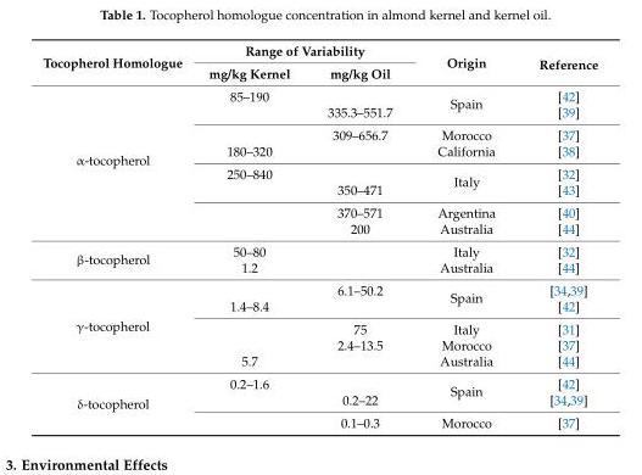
<table><thead><tr><td rowspan="2">Tocopherol Homologue</td><td colspan="2">Range of Variability</td><td rowspan="2">Origin</td><td rowspan="2">Reference</td></tr><tr><td>mg/kg Kernel</td><td>mg/kg Oil</td></tr></thead><tbody><tr><td rowspan="8">α-tocopherol</td><td>85–190</td><td></td><td rowspan="2">Spain</td><td>[42]</td></tr><tr><td></td><td>335.3–551.7</td><td>[39]</td></tr><tr><td></td><td>309–656.7</td><td>Morocco</td><td>[37]</td></tr><tr><td>180–320</td><td></td><td>California</td><td>[38]</td></tr><tr><td>250–840</td><td></td><td rowspan="2">Italy</td><td>[32]</td></tr><tr><td></td><td>350–471</td><td>[43]</td></tr><tr><td></td><td>370–571</td><td>Argentina</td><td>[40]</td></tr><tr><td></td><td>200</td><td>Australia</td><td>[44]</td></tr><tr><td rowspan="2">β-tocopherol</td><td>50–80</td><td></td><td>Italy</td><td>[32]</td></tr><tr><td>1.2</td><td></td><td>Australia</td><td>[44]</td></tr><tr><td rowspan="5">γ-tocopherol</td><td></td><td>6.1–50.2</td><td rowspan="2">Spain</td><td>[34,39]</td></tr><tr><td>1.4–8.4</td><td></td><td>[42]</td></tr><tr><td></td><td>75</td><td>Italy</td><td>[31]</td></tr><tr><td></td><td>2.4–13.5</td><td>Morocco</td><td>[37]</td></tr><tr><td>5.7</td><td></td><td>Australia</td><td>[44]</td></tr><tr><td rowspan="3">δ-tocopherol</td><td>0.2–1.6</td><td></td><td rowspan="2">Spain</td><td>[42]</td></tr><tr><td></td><td>0.2–22</td><td>[34,39]</td></tr><tr><td></td><td>0.1–0.3</td><td>Morocco</td><td>[37]</td></tr></tbody></table>